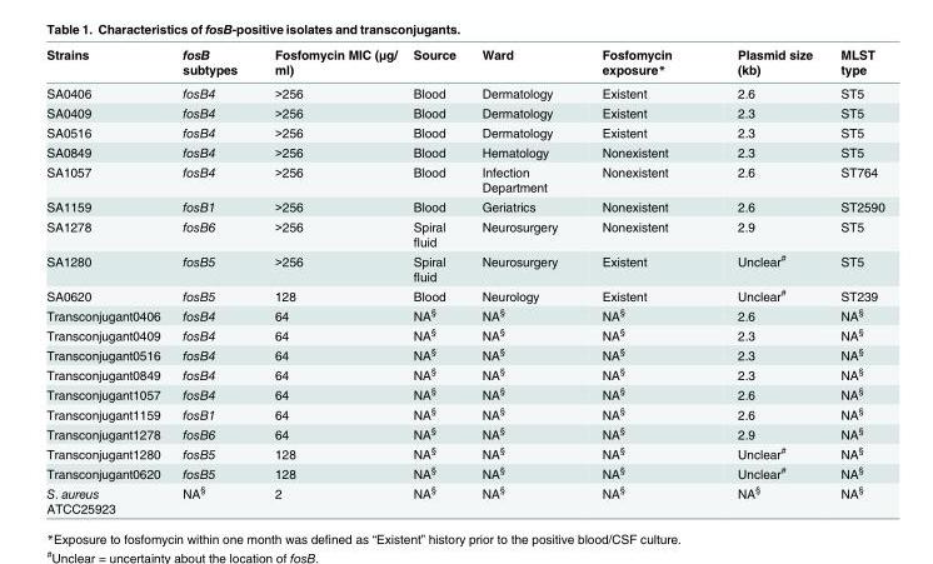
<table><thead><tr><td>Strains</td><td>fosB subtypes</td><td>Fosfomycin MIC (μg/ ml)</td><td>Source</td><td>Ward</td><td>Fosfomycin exposure*</td><td>Plasmid size (kb)</td><td>MLST type</td></tr></thead><tbody><tr><td>SA0406</td><td>fosB4</td><td>&gt;256</td><td>Blood</td><td>Dermatology</td><td>Existent</td><td>2.6</td><td>ST5</td></tr><tr><td>SA0409</td><td>fosB4</td><td>&gt;256</td><td>Blood</td><td>Dermatology</td><td>Existent</td><td>2.3</td><td>ST5</td></tr><tr><td>SA0516</td><td>fosB4</td><td>&gt;256</td><td>Blood</td><td>Dermatology</td><td>Existent</td><td>2.3</td><td>ST5</td></tr><tr><td>SA0849</td><td>fosB4</td><td>&gt;256</td><td>Blood</td><td>Hematology</td><td>Nonexistent</td><td>2.3</td><td>ST5</td></tr><tr><td>SA1057</td><td>fosB4</td><td>&gt;256</td><td>Blood</td><td>Infection Department</td><td>Nonexistent</td><td>2.6</td><td>ST764</td></tr><tr><td>SA1159</td><td>fosB1</td><td>&gt;256</td><td>Blood</td><td>Geriatrics</td><td>Nonexistent</td><td>2.6</td><td>ST2590</td></tr><tr><td>SA1278</td><td>fosB6</td><td>&gt;256</td><td>Spiral fluid</td><td>Neurosurgery</td><td>Nonexistent</td><td>2.9</td><td>ST5</td></tr><tr><td>SA1280</td><td>fosB5</td><td>&gt;256</td><td>Spiral fluid</td><td>Neurosurgery</td><td>Existent</td><td>Unclear<sup>#</sup></td><td>ST5</td></tr><tr><td>SA0620</td><td>fosB5</td><td>128</td><td>Blood</td><td>Neurology</td><td>Existent</td><td>Unclear<sup>#</sup></td><td>ST239</td></tr><tr><td>Transconjugant0406</td><td>fosB4</td><td>64</td><td>NA<sup>§</sup></td><td>NA<sup>§</sup></td><td>NA<sup>§</sup></td><td>2.6</td><td>NA<sup>§</sup></td></tr><tr><td>Transconjugant0409</td><td>fosB4</td><td>64</td><td>NA<sup>§</sup></td><td>NA<sup>§</sup></td><td>NA<sup>§</sup></td><td>2.3</td><td>NA<sup>§</sup></td></tr><tr><td>Transconjugant0516</td><td>fosB4</td><td>64</td><td>NA<sup>§</sup></td><td>NA<sup>§</sup></td><td>NA<sup>§</sup></td><td>2.3</td><td>NA<sup>§</sup></td></tr><tr><td>Transconjugant0849</td><td>fosB4</td><td>64</td><td>NA<sup>§</sup></td><td>NA<sup>§</sup></td><td>NA<sup>§</sup></td><td>2.3</td><td>NA<sup>§</sup></td></tr><tr><td>Transconjugant1057</td><td>fosB4</td><td>64</td><td>NA<sup>§</sup></td><td>NA<sup>§</sup></td><td>NA<sup>§</sup></td><td>2.6</td><td>NA<sup>§</sup></td></tr><tr><td>Transconjugant1159</td><td>fosB1</td><td>64</td><td>NA<sup>§</sup></td><td>NA<sup>§</sup></td><td>NA<sup>§</sup></td><td>2.6</td><td>NA<sup>§</sup></td></tr><tr><td>Transconjugant1278</td><td>fosB6</td><td>64</td><td>NA<sup>§</sup></td><td>NA<sup>§</sup></td><td>NA<sup>§</sup></td><td>2.9</td><td>NA<sup>§</sup></td></tr><tr><td>Transconjugant1280</td><td>fosB5</td><td>128</td><td>NA<sup>§</sup></td><td>NA<sup>§</sup></td><td>NA<sup>§</sup></td><td>Unclear<sup>#</sup></td><td>NA<sup>§</sup></td></tr><tr><td>Transconjugant0620</td><td>fosB5</td><td>128</td><td>NA<sup>§</sup></td><td>NA<sup>§</sup></td><td>NA<sup>§</sup></td><td>Unclear<sup>#</sup></td><td>NA<sup>§</sup></td></tr><tr><td>S. aureus ATCC25923</td><td>NA<sup>§</sup></td><td>2</td><td>NA<sup>§</sup></td><td>NA<sup>§</sup></td><td>NA<sup>§</sup></td><td>NA<sup>§</sup></td><td>NA<sup>§</sup></td></tr></tbody></table>